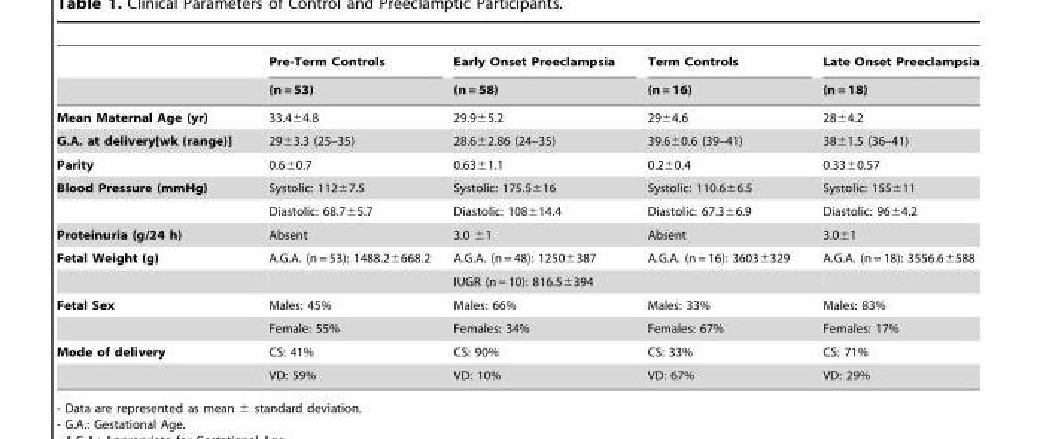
<table><thead><tr><td rowspan="2"></td><td rowspan="2">Pre-Term Controls (n = 53)</td><td rowspan="2">Early Onset Preeclampsia (n = 58)</td><td rowspan="2">Term Controls (n = 16)</td><td rowspan="2">Late Onset Preeclampsia (n = 18)</td></tr><tr></tr></thead><tbody><tr><td>Mean Maternal Age (yr)</td><td>33.4±4.8</td><td>29.9±5.2</td><td>29±4.6</td><td>28±4.2</td></tr><tr><td>G.A. at delivery[wk (range)]</td><td>29±3.3 (25–35)</td><td>28.6±2.86 (24–35)</td><td>39.6±0.6 (39–41)</td><td>38±1.5 (36–41)</td></tr><tr><td>Parity</td><td>0.6±0.7</td><td>0.63±1.1</td><td>0.2±0.4</td><td>0.33±0.57</td></tr><tr><td rowspan="2">Blood Pressure (mmHg)</td><td>Systolic: 112±7.5</td><td>Systolic: 175.5±16</td><td>Systolic: 110.6±6.5</td><td>Systolic: 155±11</td></tr><tr><td>Diastolic: 68.7±5.7</td><td>Diastolic: 108±14.4</td><td>Diastolic: 67.3±6.9</td><td>Diastolic: 96±4.2</td></tr><tr><td>Proteinuria (g/24 h)</td><td>Absent</td><td>3.0 ±1</td><td>Absent</td><td>3.0±1</td></tr><tr><td rowspan="2">Fetal Weight (g)</td><td>A.G.A. (n = 53): 1488.2±668.2</td><td>A.G.A. (n = 48): 1250±387</td><td>A.G.A. (n = 16): 3603±329</td><td>A.G.A. (n = 18): 3556.6±588</td></tr><tr><td></td><td>IUGR (n = 10): 816.5±394</td><td></td><td></td></tr><tr><td rowspan="2">Fetal Sex</td><td>Males: 45%</td><td>Males: 66%</td><td>Males: 33%</td><td>Males: 83%</td></tr><tr><td>Female: 55%</td><td>Females: 34%</td><td>Females: 67%</td><td>Females: 17%</td></tr><tr><td rowspan="2">Mode of delivery</td><td>CS: 41%</td><td>CS: 90%</td><td>CS: 33%</td><td>CS: 71%</td></tr><tr><td>VD: 59%</td><td>VD: 10%</td><td>VD: 67%</td><td>VD: 29%</td></tr></tbody></table>